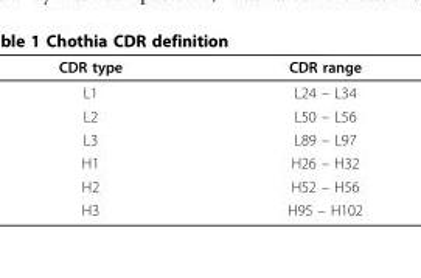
<table><thead><tr><td>CDR type</td><td>CDR range</td></tr></thead><tbody><tr><td>L1</td><td>L24 – L34</td></tr><tr><td>L2</td><td>L50 – L56</td></tr><tr><td>L3</td><td>L89 – L97</td></tr><tr><td>H1</td><td>H26 – H32</td></tr><tr><td>H2</td><td>H52 – H56</td></tr><tr><td>H3</td><td>H95 – H102</td></tr></tbody></table>